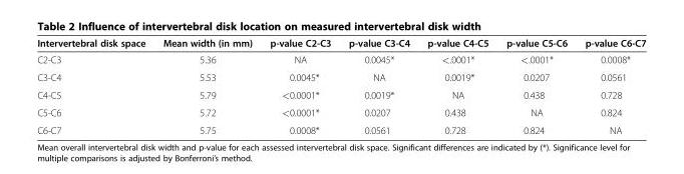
<table><thead><tr><td>Intervertebral disk space</td><td>Mean width (in mm)</td><td>p-value C2-C3</td><td>p-value C3-C4</td><td>p-value C4-C5</td><td>p-value C5-C6</td><td>p-value C6-C7</td></tr></thead><tbody><tr><td>C2-C3</td><td>5.36</td><td>NA</td><td>0.0045*</td><td>&lt;.0001*</td><td>&lt;.0001*</td><td>0.0008*</td></tr><tr><td>C3-C4</td><td>5.53</td><td>0.0045*</td><td>NA</td><td>0.0019*</td><td>0.0207</td><td>0.0561</td></tr><tr><td>C4-C5</td><td>5.79</td><td>&lt;0.0001*</td><td>0.0019*</td><td>NA</td><td>0.438</td><td>0.728</td></tr><tr><td>C5-C6</td><td>5.72</td><td>&lt;0.0001*</td><td>0.0207</td><td>0.438</td><td>NA</td><td>0.824</td></tr><tr><td>C6-C7</td><td>5.75</td><td>0.0008*</td><td>0.0561</td><td>0.728</td><td>0.824</td><td>NA</td></tr></tbody></table>